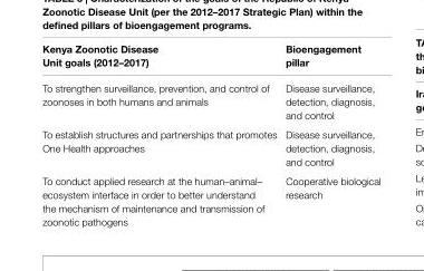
<table><thead><tr><td>Kenya Zoonotic Disease Unit goals (2012–2017)</td><td>Bioengagement pillar</td></tr></thead><tbody><tr><td>To strengthen surveillance, prevention, and control of zoonoses in both humans and animals</td><td>Disease surveillance, detection, diagnosis, and control</td></tr><tr><td>To establish structures and partnerships that promotes One Health approaches</td><td>Disease surveillance, detection, diagnosis, and control</td></tr><tr><td>To conduct applied research at the human–animal– ecosystem interface in order to better understand the mechanism of maintenance and transmission of zoonotic pathogens</td><td>Cooperative biological research</td></tr></tbody></table>